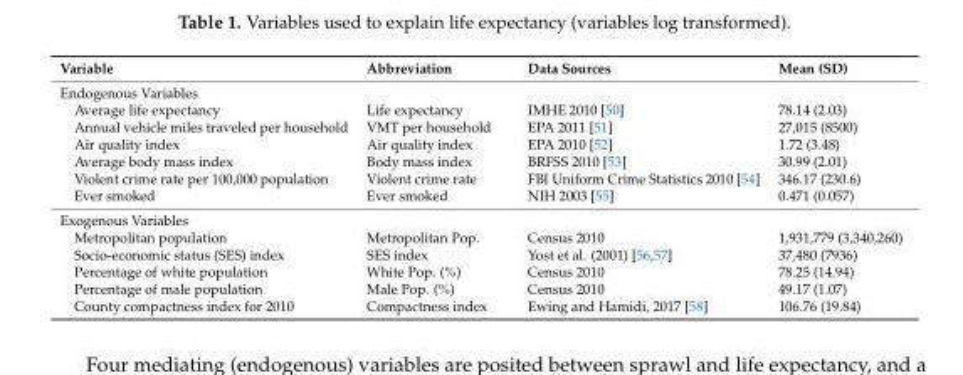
<table><thead><tr><td>Variable</td><td>Abbreviation</td><td>Data Sources</td><td>Mean (SD)</td></tr></thead><tbody><tr><td colspan="4">Endogenous Variables</td></tr><tr><td>Average life expectancy</td><td>Life expectancy</td><td>IMHE 2010 [50]</td><td>78.14 (2.03)</td></tr><tr><td>Annual vehicle miles traveled per household</td><td>VMT per household</td><td>EPA 2011 [51]</td><td>27,015 (8500)</td></tr><tr><td>Air quality index</td><td>Air quality index</td><td>EPA 2010 [52]</td><td>1.72 (3.48)</td></tr><tr><td>Average body mass index</td><td>Body mass index</td><td>BRFSS 2010 [53]</td><td>30.99 (2.01)</td></tr><tr><td>Violent crime rate per 100,000 population</td><td>Violent crime rate</td><td>FBI Uniform Crime Statistics 2010 [54]</td><td>346.17 (230.6)</td></tr><tr><td>Ever smoked</td><td>Ever smoked</td><td>NIH 2003 [55]</td><td>0.471 (0.057)</td></tr><tr><td colspan="4">Exogenous Variables</td></tr><tr><td>Metropolitan population</td><td>Metropolitan Pop.</td><td>Census 2010</td><td>1,931,779 (3,340,260)</td></tr><tr><td>Socio-economic status (SES) index</td><td>SES index</td><td>Yost et al. (2001) [56,57]</td><td>37,480 (7936)</td></tr><tr><td>Percentage of white population</td><td>White Pop. (%)</td><td>Census 2010</td><td>78.25 (14.94)</td></tr><tr><td>Percentage of male population</td><td>Male Pop. (%)</td><td>Census 2010</td><td>49.17 (1.07)</td></tr><tr><td>County compactness index for 2010</td><td>Compactness index</td><td>Ewing and Hamidi, 2017 [58]</td><td>106.76 (19.84)</td></tr></tbody></table>